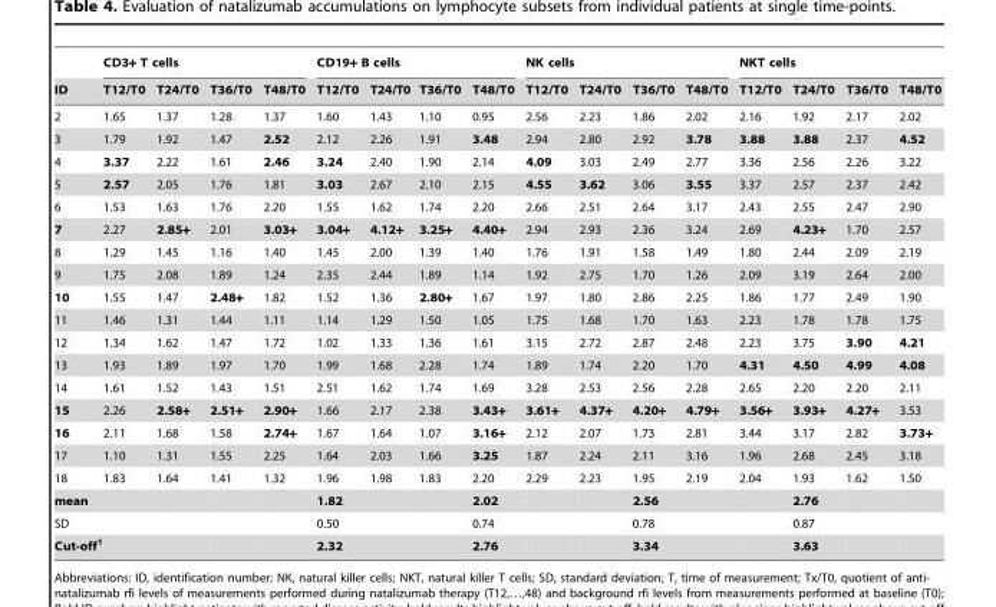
<table><thead><tr><td rowspan="2">ID</td><td colspan="4">CD3+ T cells</td><td colspan="4">CD19+ B cells</td><td colspan="4">NK cells</td><td colspan="4">NKT cells</td></tr><tr><td>T12/T0</td><td>T24/T0</td><td>T36/T0</td><td>T48/T0</td><td>T12/T0</td><td>T24/T0</td><td>T36/T0</td><td>T48/T0</td><td>T12/T0</td><td>T24/T0</td><td>T36/T0</td><td>T48/T0</td><td>T12/T0</td><td>T24/T0</td><td>T36/T0</td><td>T48/T0</td></tr></thead><tbody><tr><td>2</td><td>1.65</td><td>1.37</td><td>1.28</td><td>1.37</td><td>1.60</td><td>1.43</td><td>1.10</td><td>0.95</td><td>2.56</td><td>2.23</td><td>1.86</td><td>2.02</td><td>2.16</td><td>1.92</td><td>2.17</td><td>2.02</td></tr><tr><td>3</td><td>1.79</td><td>1.92</td><td>1.47</td><td>2.52</td><td>2.12</td><td>2.26</td><td>1.91</td><td>3.48</td><td>2.94</td><td>2.80</td><td>2.92</td><td>3.78</td><td>3.88</td><td>3.88</td><td>2.37</td><td>4.52</td></tr><tr><td>4</td><td>3.37</td><td>2.22</td><td>1.61</td><td>2.46</td><td>3.24</td><td>2.40</td><td>1.90</td><td>2.14</td><td>4.09</td><td>3.03</td><td>2.49</td><td>2.77</td><td>3.36</td><td>2.56</td><td>2.26</td><td>3.22</td></tr><tr><td>5</td><td>2.57</td><td>2.05</td><td>1.76</td><td>1.81</td><td>3.03</td><td>2.67</td><td>2.10</td><td>2.15</td><td>4.55</td><td>3.62</td><td>3.06</td><td>3.55</td><td>3.37</td><td>2.57</td><td>2.37</td><td>2.42</td></tr><tr><td>6</td><td>1.53</td><td>1.63</td><td>1.76</td><td>2.20</td><td>1.55</td><td>1.62</td><td>1.74</td><td>2.20</td><td>2.66</td><td>2.51</td><td>2.64</td><td>3.17</td><td>2.43</td><td>2.55</td><td>2.47</td><td>2.90</td></tr><tr><td>7</td><td>2.27</td><td>2.85+</td><td>2.01</td><td>3.03+</td><td>3.04+</td><td>4.12+</td><td>3.25+</td><td>4.40+</td><td>2.94</td><td>2.93</td><td>2.36</td><td>3.24</td><td>2.69</td><td>4.23+</td><td>1.70</td><td>2.57</td></tr><tr><td>8</td><td>1.29</td><td>1.45</td><td>1.16</td><td>1.40</td><td>1.45</td><td>2.00</td><td>1.39</td><td>1.40</td><td>1.76</td><td>1.91</td><td>1.58</td><td>1.49</td><td>1.80</td><td>2.44</td><td>2.09</td><td>2.19</td></tr><tr><td>9</td><td>1.75</td><td>2.08</td><td>1.89</td><td>1.24</td><td>2.35</td><td>2.44</td><td>1.89</td><td>1.14</td><td>1.92</td><td>2.75</td><td>1.70</td><td>1.26</td><td>2.09</td><td>3.19</td><td>2.64</td><td>2.00</td></tr><tr><td>10</td><td>1.55</td><td>1.47</td><td>2.48+</td><td>1.82</td><td>1.52</td><td>1.36</td><td>2.80+</td><td>1.67</td><td>1.97</td><td>1.80</td><td>2.86</td><td>2.25</td><td>1.86</td><td>1.77</td><td>2.49</td><td>1.90</td></tr><tr><td>11</td><td>1.46</td><td>1.31</td><td>1.44</td><td>1.11</td><td>1.14</td><td>1.29</td><td>1.50</td><td>1.05</td><td>1.75</td><td>1.68</td><td>1.70</td><td>1.63</td><td>2.23</td><td>1.78</td><td>1.78</td><td>1.75</td></tr><tr><td>12</td><td>1.34</td><td>1.62</td><td>1.47</td><td>1.72</td><td>1.02</td><td>1.33</td><td>1.36</td><td>1.61</td><td>3.15</td><td>2.72</td><td>2.87</td><td>2.48</td><td>2.23</td><td>3.75</td><td>3.90</td><td>4.21</td></tr><tr><td>13</td><td>1.93</td><td>1.89</td><td>1.97</td><td>1.70</td><td>1.99</td><td>1.68</td><td>2.28</td><td>1.74</td><td>1.89</td><td>1.74</td><td>2.20</td><td>1.70</td><td>4.31</td><td>4.50</td><td>4.99</td><td>4.08</td></tr><tr><td>14</td><td>1.61</td><td>1.52</td><td>1.43</td><td>1.51</td><td>2.51</td><td>1.62</td><td>1.74</td><td>1.69</td><td>3.28</td><td>2.53</td><td>2.56</td><td>2.28</td><td>2.65</td><td>2.20</td><td>2.20</td><td>2.11</td></tr><tr><td>15</td><td>2.26</td><td>2.58+</td><td>2.51+</td><td>2.90+</td><td>1.66</td><td>2.17</td><td>2.38</td><td>3.43+</td><td>3.61+</td><td>4.37+</td><td>4.20+</td><td>4.79+</td><td>3.56+</td><td>3.93+</td><td>4.27+</td><td>3.53</td></tr><tr><td>16</td><td>2.11</td><td>1.68</td><td>1.58</td><td>2.74+</td><td>1.67</td><td>1.64</td><td>1.07</td><td>3.16+</td><td>2.12</td><td>2.07</td><td>1.73</td><td>2.81</td><td>3.44</td><td>3.17</td><td>2.82</td><td>3.73+</td></tr><tr><td>17</td><td>1.10</td><td>1.31</td><td>1.55</td><td>2.25</td><td>1.64</td><td>2.03</td><td>1.66</td><td>3.25</td><td>1.87</td><td>2.24</td><td>2.11</td><td>3.16</td><td>1.96</td><td>2.68</td><td>2.45</td><td>3.18</td></tr><tr><td>18</td><td>1.83</td><td>1.64</td><td>1.41</td><td>1.32</td><td>1.96</td><td>1.98</td><td>1.83</td><td>2.20</td><td>2.29</td><td>2.23</td><td>1.95</td><td>2.19</td><td>2.04</td><td>1.93</td><td>1.62</td><td>1.50</td></tr><tr><td>mean</td><td></td><td></td><td></td><td></td><td>1.82</td><td></td><td></td><td>2.02</td><td></td><td></td><td>2.56</td><td></td><td></td><td>2.76</td><td></td><td></td></tr><tr><td>SD</td><td></td><td></td><td></td><td></td><td>0.50</td><td></td><td></td><td>0.74</td><td></td><td></td><td>0.78</td><td></td><td></td><td>0.87</td><td></td><td></td></tr><tr><td>Cut-off1</td><td></td><td></td><td></td><td></td><td>2.32</td><td></td><td></td><td>2.76</td><td></td><td></td><td>3.34</td><td></td><td></td><td>3.63</td><td></td><td></td></tr></tbody></table>